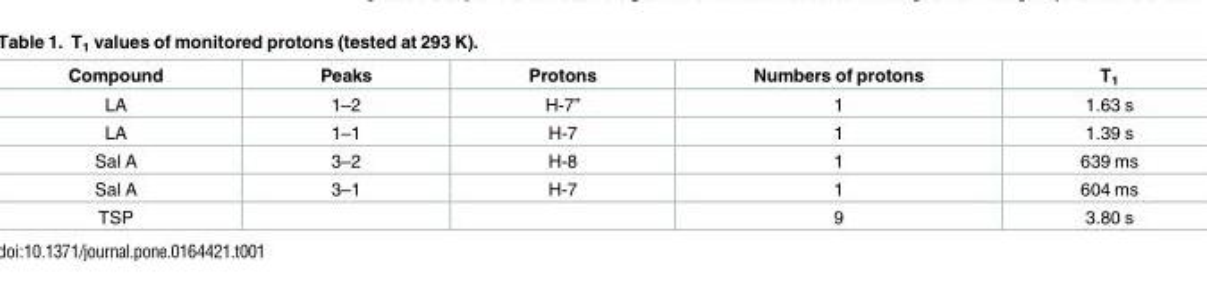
<table><thead><tr><td>Compound</td><td>Peaks</td><td>Protons</td><td>Numbers of protons</td><td>T<sub>1</sub></td></tr></thead><tbody><tr><td>LA</td><td>1–2</td><td>H-7”</td><td>1</td><td>1.63 s</td></tr><tr><td>LA</td><td>1–1</td><td>H-7</td><td>1</td><td>1.39 s</td></tr><tr><td>Sal A</td><td>3–2</td><td>H-8</td><td>1</td><td>639 ms</td></tr><tr><td>Sal A</td><td>3–1</td><td>H-7</td><td>1</td><td>604 ms</td></tr><tr><td>TSP</td><td></td><td></td><td>9</td><td>3.80 s</td></tr></tbody></table>